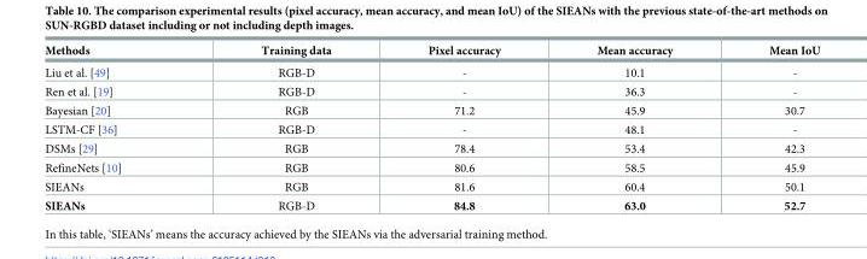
<table><thead><tr><td>Methods</td><td>Training data</td><td>Pixel accuracy</td><td>Mean accuracy</td><td>Mean IoU</td></tr></thead><tbody><tr><td>Liu et al. [49]</td><td>RGB-D</td><td>-</td><td>10.1</td><td>-</td></tr><tr><td>Ren et al. [19]</td><td>RGB-D</td><td>-</td><td>36.3</td><td>-</td></tr><tr><td>Bayesian [20]</td><td>RGB</td><td>71.2</td><td>45.9</td><td>30.7</td></tr><tr><td>LSTM-CF [36]</td><td>RGB-D</td><td>-</td><td>48.1</td><td>-</td></tr><tr><td>DSMs [29]</td><td>RGB</td><td>78.4</td><td>53.4</td><td>42.3</td></tr><tr><td>RefineNets [10]</td><td>RGB</td><td>80.6</td><td>58.5</td><td>45.9</td></tr><tr><td>SIEANs</td><td>RGB</td><td>81.6</td><td>60.4</td><td>50.1</td></tr><tr><td>SIEANs</td><td>RGB-D</td><td>84.8</td><td>63.0</td><td>52.7</td></tr></tbody></table>